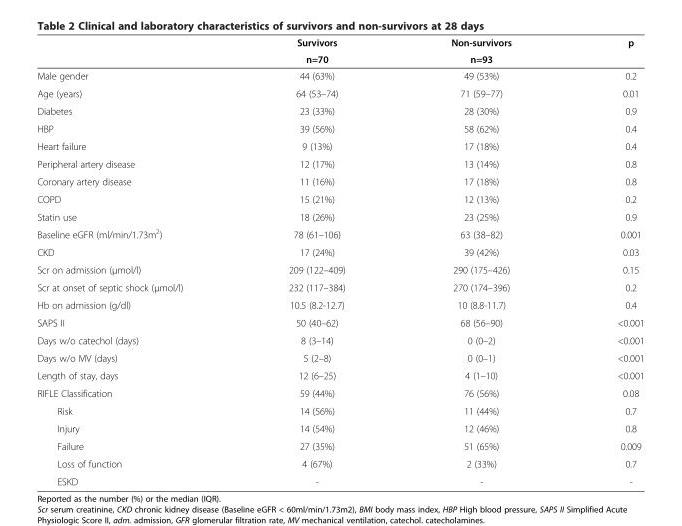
<table><thead><tr><td rowspan="2"></td><td rowspan="2">Survivors n=70</td><td rowspan="2">Non-survivors n=93</td><td rowspan="2">p</td></tr><tr></tr></thead><tbody><tr><td>Male gender</td><td>44 (63%)</td><td>49 (53%)</td><td>0.2</td></tr><tr><td>Age (years)</td><td>64 (53–74)</td><td>71 (59–77)</td><td>0.01</td></tr><tr><td>Diabetes</td><td>23 (33%)</td><td>28 (30%)</td><td>0.9</td></tr><tr><td>HBP</td><td>39 (56%)</td><td>58 (62%)</td><td>0.4</td></tr><tr><td>Heart failure</td><td>9 (13%)</td><td>17 (18%)</td><td>0.4</td></tr><tr><td>Peripheral artery disease</td><td>12 (17%)</td><td>13 (14%)</td><td>0.8</td></tr><tr><td>Coronary artery disease</td><td>11 (16%)</td><td>17 (18%)</td><td>0.8</td></tr><tr><td>COPD</td><td>15 (21%)</td><td>12 (13%)</td><td>0.2</td></tr><tr><td>Statin use</td><td>18 (26%)</td><td>23 (25%)</td><td>0.9</td></tr><tr><td>Baseline eGFR (ml/min/1.73m<sup>2</sup>)</td><td>78 (61–106)</td><td>63 (38–82)</td><td>0.001</td></tr><tr><td>CKD</td><td>17 (24%)</td><td>39 (42%)</td><td>0.03</td></tr><tr><td>Scr on admission (μmol/l)</td><td>209 (122–409)</td><td>290 (175–426)</td><td>0.15</td></tr><tr><td>Scr at onset of septic shock (μmol/l)</td><td>232 (117–384)</td><td>270 (174–396)</td><td>0.2</td></tr><tr><td>Hb on admission (g/dl)</td><td>10.5 (8.2-12.7)</td><td>10 (8.8-11.7)</td><td>0.4</td></tr><tr><td>SAPS II</td><td>50 (40–62)</td><td>68 (56–90)</td><td>&lt;0.001</td></tr><tr><td>Days w/o catechol (days)</td><td>8 (3–14)</td><td>0 (0–2)</td><td>&lt;0.001</td></tr><tr><td>Days w/o MV (days)</td><td>5 (2–8)</td><td>0 (0–1)</td><td>&lt;0.001</td></tr><tr><td>Length of stay, days</td><td>12 (6–25)</td><td>4 (1–10)</td><td>&lt;0.001</td></tr><tr><td>RIFLE Classification</td><td>59 (44%)</td><td>76 (56%)</td><td>0.08</td></tr><tr><td>Risk</td><td>14 (56%)</td><td>11 (44%)</td><td>0.7</td></tr><tr><td>Injury</td><td>14 (54%)</td><td>12 (46%)</td><td>0.8</td></tr><tr><td>Failure</td><td>27 (35%)</td><td>51 (65%)</td><td>0.009</td></tr><tr><td>Loss of function</td><td>4 (67%)</td><td>2 (33%)</td><td>0.7</td></tr><tr><td>ESKD</td><td>-</td><td>-</td><td>-</td></tr></tbody></table>